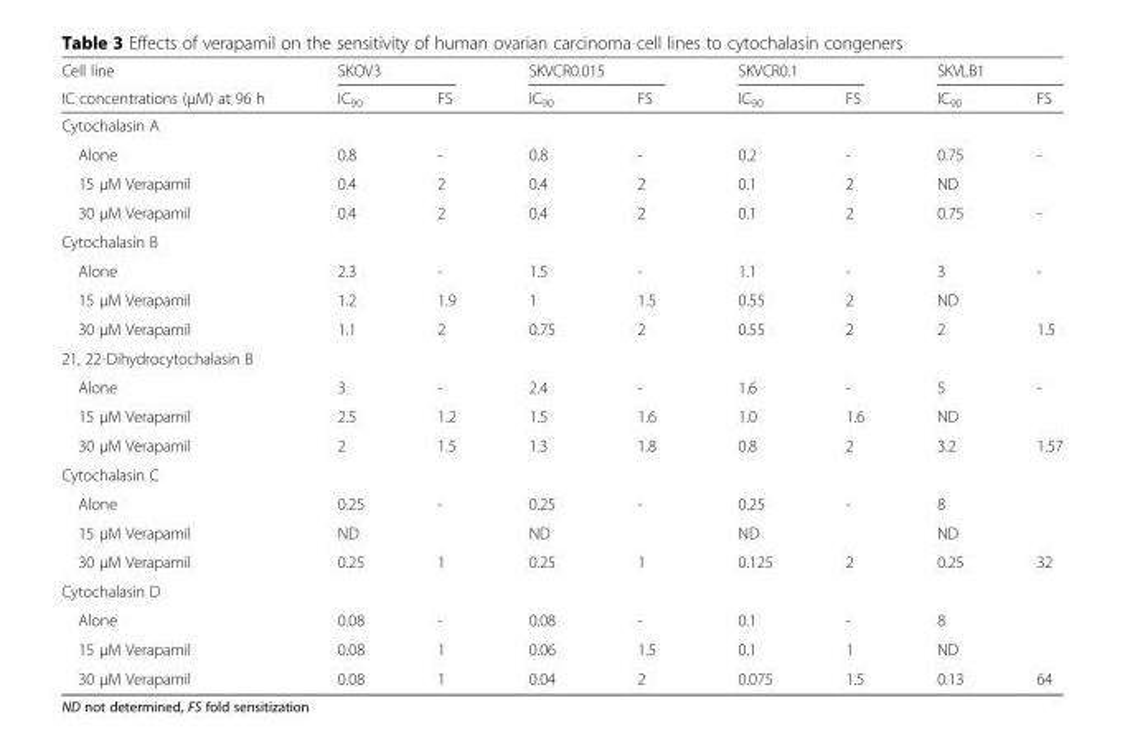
<table><thead><tr><td rowspan="2">Cell line IC concentrations (μM) at 96 h</td><td colspan="2">SKOV3</td><td colspan="2">SKVCR0.015</td><td colspan="2">SKVCR0.1</td><td colspan="2">SKVLB1</td></tr><tr><td>IC<sub>90</sub></td><td>FS</td><td>IC<sub>90</sub></td><td>FS</td><td>IC<sub>90</sub></td><td>FS</td><td>IC<sub>90</sub></td><td>FS</td></tr></thead><tbody><tr><td colspan="9">Cytochalasin A</td></tr><tr><td>Alone</td><td>0.8</td><td>-</td><td>0.8</td><td>-</td><td>0.2</td><td>-</td><td>0.75</td><td>-</td></tr><tr><td>15 μM Verapamil</td><td>0.4</td><td>2</td><td>0.4</td><td>2</td><td>0.1</td><td>2</td><td>ND</td><td></td></tr><tr><td>30 μM Verapamil</td><td>0.4</td><td>2</td><td>0.4</td><td>2</td><td>0.1</td><td>2</td><td>0.75</td><td>-</td></tr><tr><td colspan="9">Cytochalasin B</td></tr><tr><td>Alone</td><td>2.3</td><td>-</td><td>1.5</td><td>-</td><td>1.1</td><td>-</td><td>3</td><td>-</td></tr><tr><td>15 μM Verapamil</td><td>1.2</td><td>1.9</td><td>1</td><td>1.5</td><td>0.55</td><td>2</td><td>ND</td><td></td></tr><tr><td>30 μM Verapamil</td><td>1.1</td><td>2</td><td>0.75</td><td>2</td><td>0.55</td><td>2</td><td>2</td><td>1.5</td></tr><tr><td colspan="9">21, 22-Dihydrocytochalasin B</td></tr><tr><td>Alone</td><td>3</td><td>-</td><td>2.4</td><td>-</td><td>1.6</td><td>-</td><td>5</td><td>-</td></tr><tr><td>15 μM Verapamil</td><td>2.5</td><td>1.2</td><td>1.5</td><td>1.6</td><td>1.0</td><td>1.6</td><td>ND</td><td></td></tr><tr><td>30 μM Verapamil</td><td>2</td><td>1.5</td><td>1.3</td><td>1.8</td><td>0.8</td><td>2</td><td>3.2</td><td>1.57</td></tr><tr><td colspan="9">Cytochalasin C</td></tr><tr><td>Alone</td><td>0.25</td><td>-</td><td>0.25</td><td>-</td><td>0.25</td><td>-</td><td>8</td><td></td></tr><tr><td>15 μM Verapamil</td><td>ND</td><td></td><td>ND</td><td></td><td>ND</td><td></td><td>ND</td><td></td></tr><tr><td>30 μM Verapamil</td><td>0.25</td><td>1</td><td>0.25</td><td>1</td><td>0.125</td><td>2</td><td>0.25</td><td>32</td></tr><tr><td colspan="9">Cytochalasin D</td></tr><tr><td>Alone</td><td>0.08</td><td>-</td><td>0.08</td><td>-</td><td>0.1</td><td>-</td><td>8</td><td></td></tr><tr><td>15 μM Verapamil</td><td>0.08</td><td>1</td><td>0.06</td><td>1.5</td><td>0.1</td><td>1</td><td>ND</td><td></td></tr><tr><td>30 μM Verapamil</td><td>0.08</td><td>1</td><td>0.04</td><td>2</td><td>0.075</td><td>1.5</td><td>0.13</td><td>64</td></tr></tbody></table>